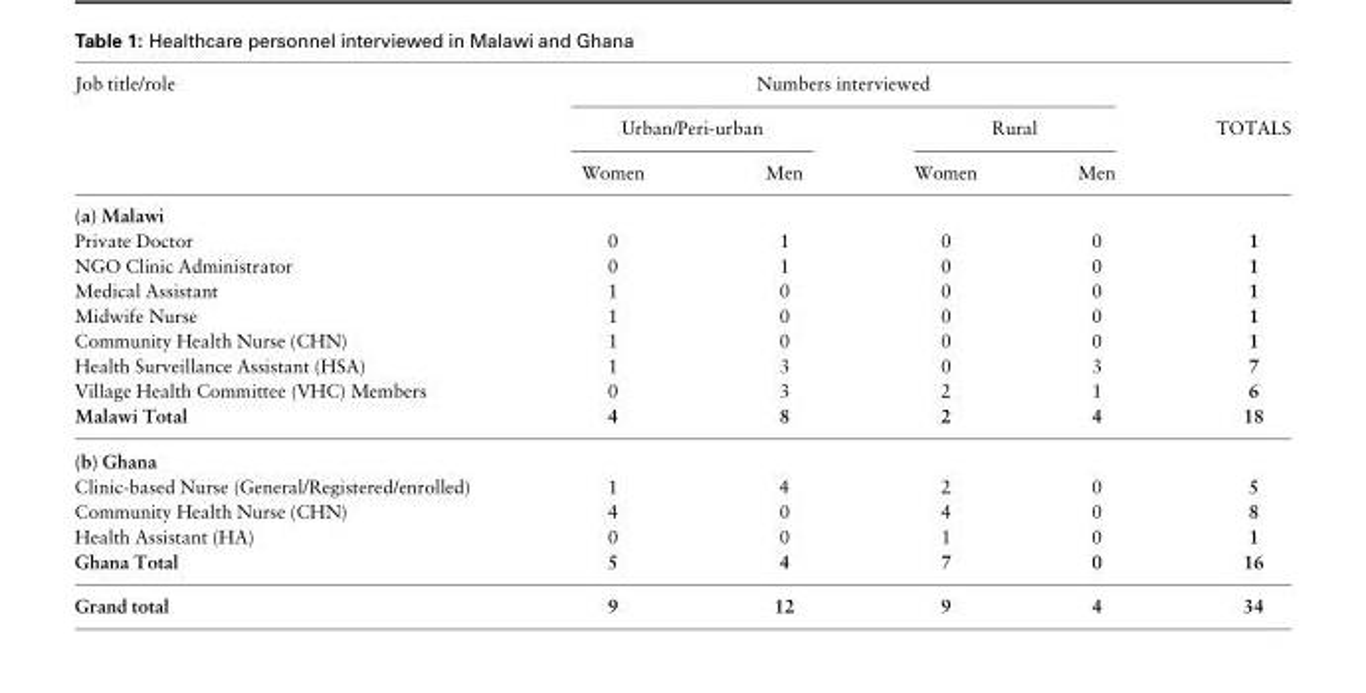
<table><thead><tr><td rowspan="3">Job title/role</td><td colspan="4">Numbers interviewed</td><td rowspan="3">TOTALS</td></tr><tr><td colspan="2">Urban/Peri-urban</td><td colspan="2">Rural</td></tr><tr><td>Women</td><td>Men</td><td>Women</td><td>Men</td></tr></thead><tbody><tr><td colspan="6">(a) Malawi</td></tr><tr><td>Private Doctor</td><td>0</td><td>1</td><td>0</td><td>0</td><td>1</td></tr><tr><td>NGO Clinic Administrator</td><td>0</td><td>1</td><td>0</td><td>0</td><td>1</td></tr><tr><td>Medical Assistant</td><td>1</td><td>0</td><td>0</td><td>0</td><td>1</td></tr><tr><td>Midwife Nurse</td><td>1</td><td>0</td><td>0</td><td>0</td><td>1</td></tr><tr><td>Community Health Nurse (CHN)</td><td>1</td><td>0</td><td>0</td><td>0</td><td>1</td></tr><tr><td>Health Surveillance Assistant (HSA)</td><td>1</td><td>3</td><td>0</td><td>3</td><td>7</td></tr><tr><td>Village Health Committee (VHC) Members</td><td>0</td><td>3</td><td>2</td><td>1</td><td>6</td></tr><tr><td>Malawi Total</td><td>4</td><td>8</td><td>2</td><td>4</td><td>18</td></tr><tr><td colspan="6">(b) Ghana</td></tr><tr><td>Clinic-based Nurse (General/Registered/enrolled)</td><td>1</td><td>4</td><td>2</td><td>0</td><td>5</td></tr><tr><td>Community Health Nurse (CHN)</td><td>4</td><td>0</td><td>4</td><td>0</td><td>8</td></tr><tr><td>Health Assistant (HA)</td><td>0</td><td>0</td><td>1</td><td>0</td><td>1</td></tr><tr><td>Ghana Total</td><td>5</td><td>4</td><td>7</td><td>0</td><td>16</td></tr><tr><td>Grand total</td><td>9</td><td>12</td><td>9</td><td>4</td><td>34</td></tr></tbody></table>